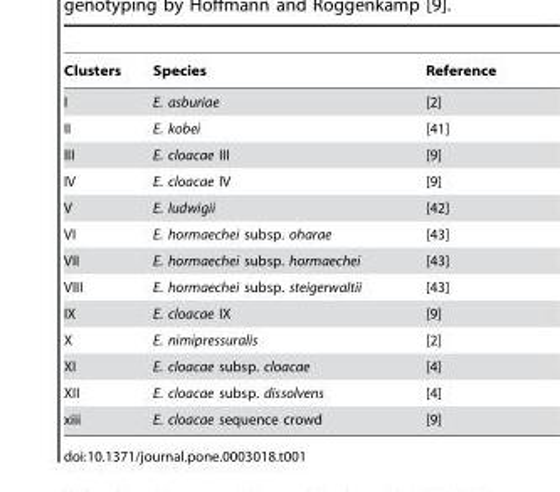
<table><thead><tr><td>Clusters</td><td>Species</td><td>Reference</td></tr></thead><tbody><tr><td>I</td><td>E. asburiae</td><td>[2]</td></tr><tr><td>II</td><td>E. kobei</td><td>[41]</td></tr><tr><td>III</td><td>E. cloacae III</td><td>[9]</td></tr><tr><td>IV</td><td>E. cloacae IV</td><td>[9]</td></tr><tr><td>V</td><td>E. ludwigii</td><td>[42]</td></tr><tr><td>VI</td><td>E. hormaechei subsp. oharae</td><td>[43]</td></tr><tr><td>VII</td><td>E. hormaechei subsp. hormaechei</td><td>[43]</td></tr><tr><td>VIII</td><td>E. hormaechei subsp. steigerwaltii</td><td>[43]</td></tr><tr><td>IX</td><td>E. cloacae IX</td><td>[9]</td></tr><tr><td>X</td><td>E. nimipressuralis</td><td>[2]</td></tr><tr><td>XI</td><td>E. cloacae subsp. cloacae</td><td>[4]</td></tr><tr><td>XII</td><td>E. cloacae subsp. dissolvens</td><td>[4]</td></tr><tr><td>xiii</td><td>E. cloacae sequence crowd</td><td>[9]</td></tr></tbody></table>